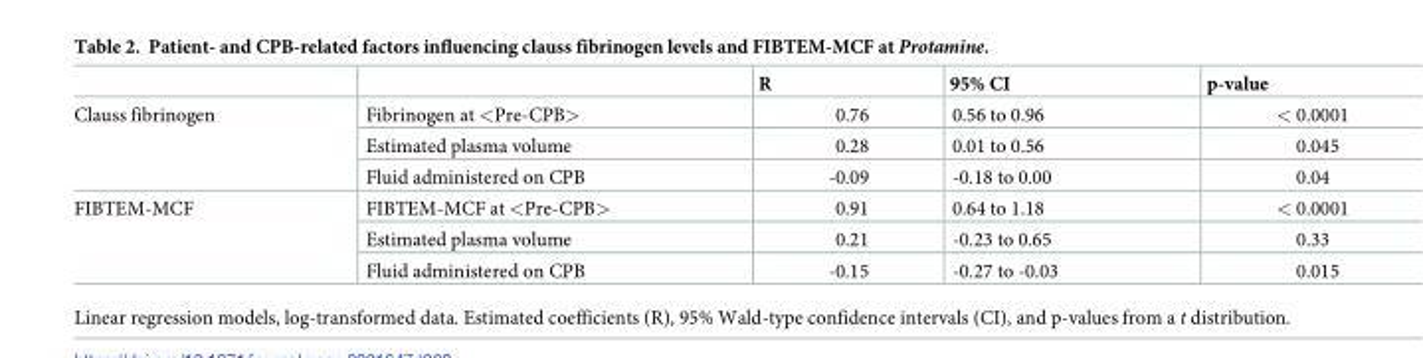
<table><thead><tr><td></td><td></td><td>R</td><td>95% CI</td><td>p-value</td></tr></thead><tbody><tr><td rowspan="3">Clauss fibrinogen</td><td>Fibrinogen at &lt;Pre-CPB&gt;</td><td>0.76</td><td>0.56 to 0.96</td><td>&lt; 0.0001</td></tr><tr><td>Estimated plasma volume</td><td>0.28</td><td>0.01 to 0.56</td><td>0.045</td></tr><tr><td>Fluid administered on CPB</td><td>-0.09</td><td>-0.18 to 0.00</td><td>0.04</td></tr><tr><td rowspan="3">FIBTEM-MCF</td><td>FIBTEM-MCF at &lt;Pre-CPB&gt;</td><td>0.91</td><td>0.64 to 1.18</td><td>&lt; 0.0001</td></tr><tr><td>Estimated plasma volume</td><td>0.21</td><td>-0.23 to 0.65</td><td>0.33</td></tr><tr><td>Fluid administered on CPB</td><td>-0.15</td><td>-0.27 to -0.03</td><td>0.015</td></tr></tbody></table>